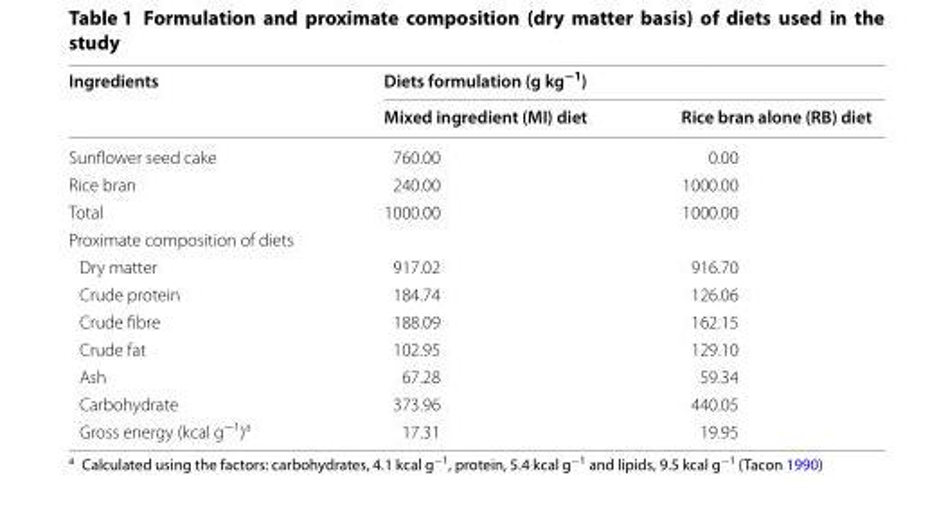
<table><thead><tr><td rowspan="2">Ingredients</td><td colspan="2">Diets formulation (g kg<sup>−1</sup>)</td></tr><tr><td>Mixed ingredient (MI) diet</td><td>Rice bran alone (RB) diet</td></tr></thead><tbody><tr><td>Sunflower seed cake</td><td>760.00</td><td>0.00</td></tr><tr><td>Rice bran</td><td>240.00</td><td>1000.00</td></tr><tr><td>Total</td><td>1000.00</td><td>1000.00</td></tr><tr><td colspan="3">Proximate composition of diets</td></tr><tr><td>Dry matter</td><td>917.02</td><td>916.70</td></tr><tr><td>Crude protein</td><td>184.74</td><td>126.06</td></tr><tr><td>Crude fibre</td><td>188.09</td><td>162.15</td></tr><tr><td>Crude fat</td><td>102.95</td><td>129.10</td></tr><tr><td>Ash</td><td>67.28</td><td>59.34</td></tr><tr><td>Carbohydrate</td><td>373.96</td><td>440.05</td></tr><tr><td>Gross energy (kcal g<sup>−1</sup>)<sup>a</sup></td><td>17.31</td><td>19.95</td></tr></tbody></table>